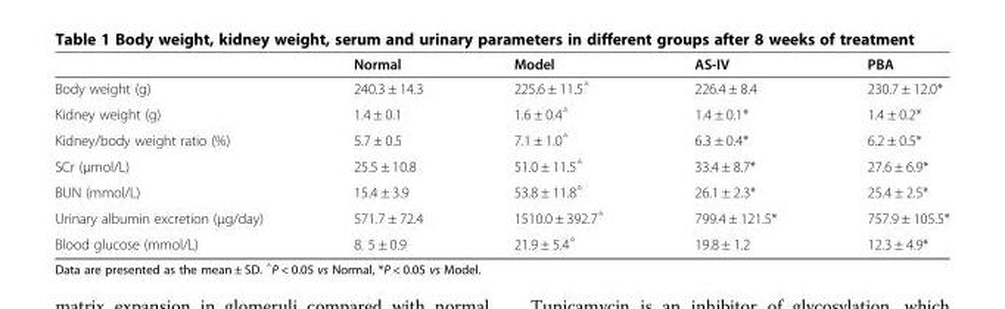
<table><thead><tr><td></td><td>Normal</td><td>Model</td><td>AS-IV</td><td>PBA</td></tr></thead><tbody><tr><td>Body weight (g)</td><td>240.3 ± 14.3</td><td>225.6 ± 11.5<sup>△</sup></td><td>226.4 ± 8.4</td><td>230.7 ± 12.0*</td></tr><tr><td>Kidney weight (g)</td><td>1.4 ± 0.1</td><td>1.6 ± 0.4<sup>△</sup></td><td>1.4 ± 0.1*</td><td>1.4 ± 0.2*</td></tr><tr><td>Kidney/body weight ratio (%)</td><td>5.7 ± 0.5</td><td>7.1 ± 1.0<sup>△</sup></td><td>6.3 ± 0.4*</td><td>6.2 ± 0.5*</td></tr><tr><td>SCr (μmol/L)</td><td>25.5 ± 10.8</td><td>51.0 ± 11.5<sup>△</sup></td><td>33.4 ± 8.7*</td><td>27.6 ± 6.9*</td></tr><tr><td>BUN (mmol/L)</td><td>15.4 ± 3.9</td><td>53.8 ± 11.8<sup>△</sup></td><td>26.1 ± 2.3*</td><td>25.4 ± 2.5*</td></tr><tr><td>Urinary albumin excretion (μg/day)</td><td>571.7 ± 72.4</td><td>1510.0 ± 392.7<sup>△</sup></td><td>799.4 ± 121.5*</td><td>757.9 ± 105.5*</td></tr><tr><td>Blood glucose (mmol/L)</td><td>8. 5 ± 0.9</td><td>21.9 ± 5.4<sup>△</sup></td><td>19.8 ± 1.2</td><td>12.3 ± 4.9*</td></tr></tbody></table>